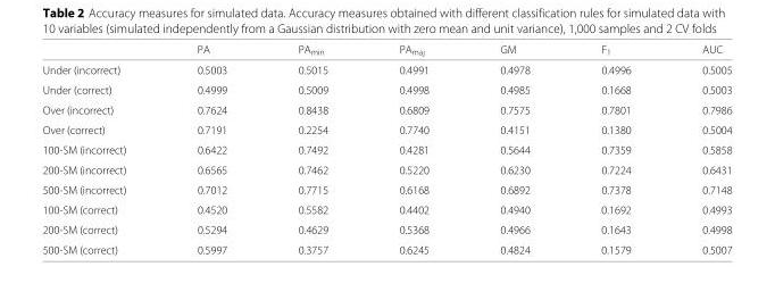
<table><thead><tr><td></td><td>PA</td><td>PA<sub>min</sub></td><td>PA<sub>maj</sub></td><td>GM</td><td>F<sub>1</sub></td><td>AUC</td></tr></thead><tbody><tr><td>Under (incorrect)</td><td>0.5003</td><td>0.5015</td><td>0.4991</td><td>0.4978</td><td>0.4996</td><td>0.5005</td></tr><tr><td>Under (correct)</td><td>0.4999</td><td>0.5009</td><td>0.4998</td><td>0.4985</td><td>0.1668</td><td>0.5003</td></tr><tr><td>Over (incorrect)</td><td>0.7624</td><td>0.8438</td><td>0.6809</td><td>0.7575</td><td>0.7801</td><td>0.7986</td></tr><tr><td>Over (correct)</td><td>0.7191</td><td>0.2254</td><td>0.7740</td><td>0.4151</td><td>0.1380</td><td>0.5004</td></tr><tr><td>100-SM (incorrect)</td><td>0.6422</td><td>0.7492</td><td>0.4281</td><td>0.5644</td><td>0.7359</td><td>0.5858</td></tr><tr><td>200-SM (incorrect)</td><td>0.6565</td><td>0.7462</td><td>0.5220</td><td>0.6230</td><td>0.7224</td><td>0.6431</td></tr><tr><td>500-SM (incorrect)</td><td>0.7012</td><td>0.7715</td><td>0.6168</td><td>0.6892</td><td>0.7378</td><td>0.7148</td></tr><tr><td>100-SM (correct)</td><td>0.4520</td><td>0.5582</td><td>0.4402</td><td>0.4940</td><td>0.1692</td><td>0.4993</td></tr><tr><td>200-SM (correct)</td><td>0.5294</td><td>0.4629</td><td>0.5368</td><td>0.4966</td><td>0.1643</td><td>0.4998</td></tr><tr><td>500-SM (correct)</td><td>0.5997</td><td>0.3757</td><td>0.6245</td><td>0.4824</td><td>0.1579</td><td>0.5007</td></tr></tbody></table>